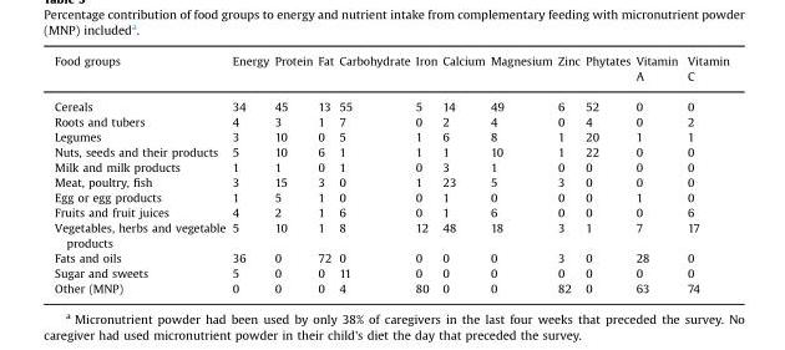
<table><thead><tr><td>Food groups</td><td>Energy</td><td>Protein</td><td>Fat</td><td>Carbohydrate</td><td>Iron</td><td>Calcium</td><td>Magnesium</td><td>Zinc</td><td>Phytates</td><td>Vitamin A</td><td>Vitamin C</td></tr></thead><tbody><tr><td>Cereals</td><td>34</td><td>45</td><td>13</td><td>55</td><td>5</td><td>14</td><td>49</td><td>6</td><td>52</td><td>0</td><td>0</td></tr><tr><td>Roots and tubers</td><td>4</td><td>3</td><td>1</td><td>7</td><td>0</td><td>2</td><td>4</td><td>0</td><td>4</td><td>0</td><td>2</td></tr><tr><td>Legumes</td><td>3</td><td>10</td><td>0</td><td>5</td><td>1</td><td>6</td><td>8</td><td>1</td><td>20</td><td>1</td><td>1</td></tr><tr><td>Nuts, seeds and their products</td><td>5</td><td>10</td><td>6</td><td>1</td><td>1</td><td>1</td><td>10</td><td>1</td><td>22</td><td>0</td><td>0</td></tr><tr><td>Milk and milk products</td><td>1</td><td>1</td><td>0</td><td>1</td><td>0</td><td>3</td><td>1</td><td>0</td><td>0</td><td>0</td><td>0</td></tr><tr><td>Meat, poultry, fish</td><td>3</td><td>15</td><td>3</td><td>0</td><td>1</td><td>23</td><td>5</td><td>3</td><td>0</td><td>0</td><td>0</td></tr><tr><td>Egg or egg products</td><td>1</td><td>5</td><td>1</td><td>0</td><td>0</td><td>1</td><td>0</td><td>0</td><td>0</td><td>1</td><td>0</td></tr><tr><td>Fruits and fruit juices</td><td>4</td><td>2</td><td>1</td><td>6</td><td>0</td><td>1</td><td>6</td><td>0</td><td>0</td><td>0</td><td>6</td></tr><tr><td>Vegetables, herbs and vegetable products</td><td>5</td><td>10</td><td>1</td><td>8</td><td>12</td><td>48</td><td>18</td><td>3</td><td>1</td><td>7</td><td>17</td></tr><tr><td>Fats and oils</td><td>36</td><td>0</td><td>72</td><td>0</td><td>0</td><td>0</td><td>0</td><td>3</td><td>0</td><td>28</td><td>0</td></tr><tr><td>Sugar and sweets</td><td>5</td><td>0</td><td>0</td><td>11</td><td>0</td><td>0</td><td>0</td><td>0</td><td>0</td><td>0</td><td>0</td></tr><tr><td>Other (MNP)</td><td>0</td><td>0</td><td>0</td><td>4</td><td>80</td><td>0</td><td>0</td><td>82</td><td>0</td><td>63</td><td>74</td></tr></tbody></table>